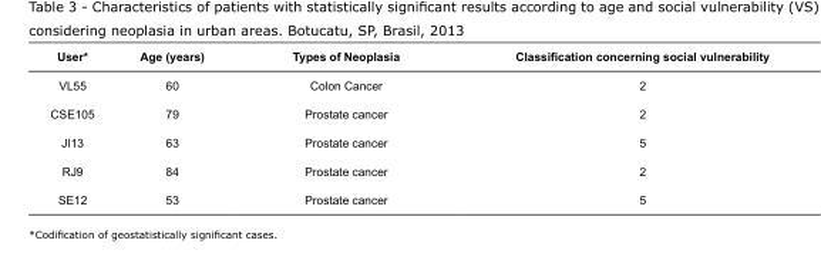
<table><tbody><tr><td>User*</td><td>Age (years)</td><td>Types of Neoplasia</td><td>Classification concerning social vulnerability</td></tr><tr><td>VL55</td><td>60</td><td>Colon Cancer</td><td>2</td></tr><tr><td>CSE105</td><td>79</td><td>Prostate cancer</td><td>2</td></tr><tr><td>JI13</td><td>63</td><td>Prostate cancer</td><td>5</td></tr><tr><td>RJ9</td><td>84</td><td>Prostate cancer</td><td>2</td></tr><tr><td>SE12</td><td>53</td><td>Prostate cancer</td><td>5</td></tr></tbody></table>